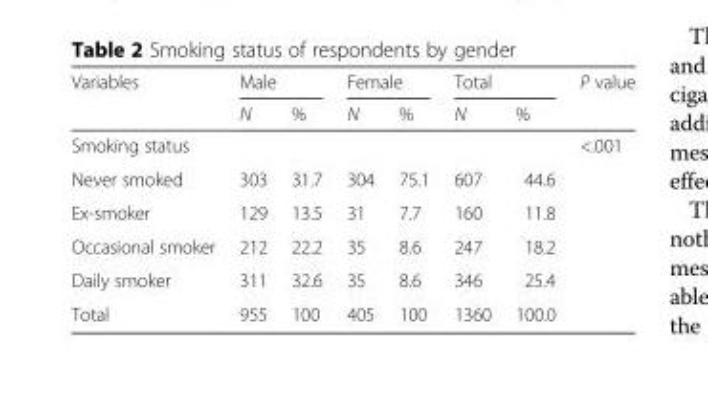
<table><thead><tr><td rowspan="2">Variables</td><td colspan="2">Male</td><td colspan="2">Female</td><td colspan="2">Total</td><td rowspan="2">P value</td></tr><tr><td>N</td><td>%</td><td>N</td><td>%</td><td>N</td><td>%</td></tr></thead><tbody><tr><td>Smoking status</td><td></td><td></td><td></td><td></td><td></td><td></td><td>&lt;.001</td></tr><tr><td>Never smoked</td><td>303</td><td>31.7</td><td>304</td><td>75.1</td><td>607</td><td>44.6</td><td></td></tr><tr><td>Ex-smoker</td><td>129</td><td>13.5</td><td>31</td><td>7.7</td><td>160</td><td>11.8</td><td></td></tr><tr><td>Occasional smoker</td><td>212</td><td>22.2</td><td>35</td><td>8.6</td><td>247</td><td>18.2</td><td></td></tr><tr><td>Daily smoker</td><td>311</td><td>32.6</td><td>35</td><td>8.6</td><td>346</td><td>25.4</td><td></td></tr><tr><td>Total</td><td>955</td><td>100</td><td>405</td><td>100</td><td>1360</td><td>100.0</td><td></td></tr></tbody></table>